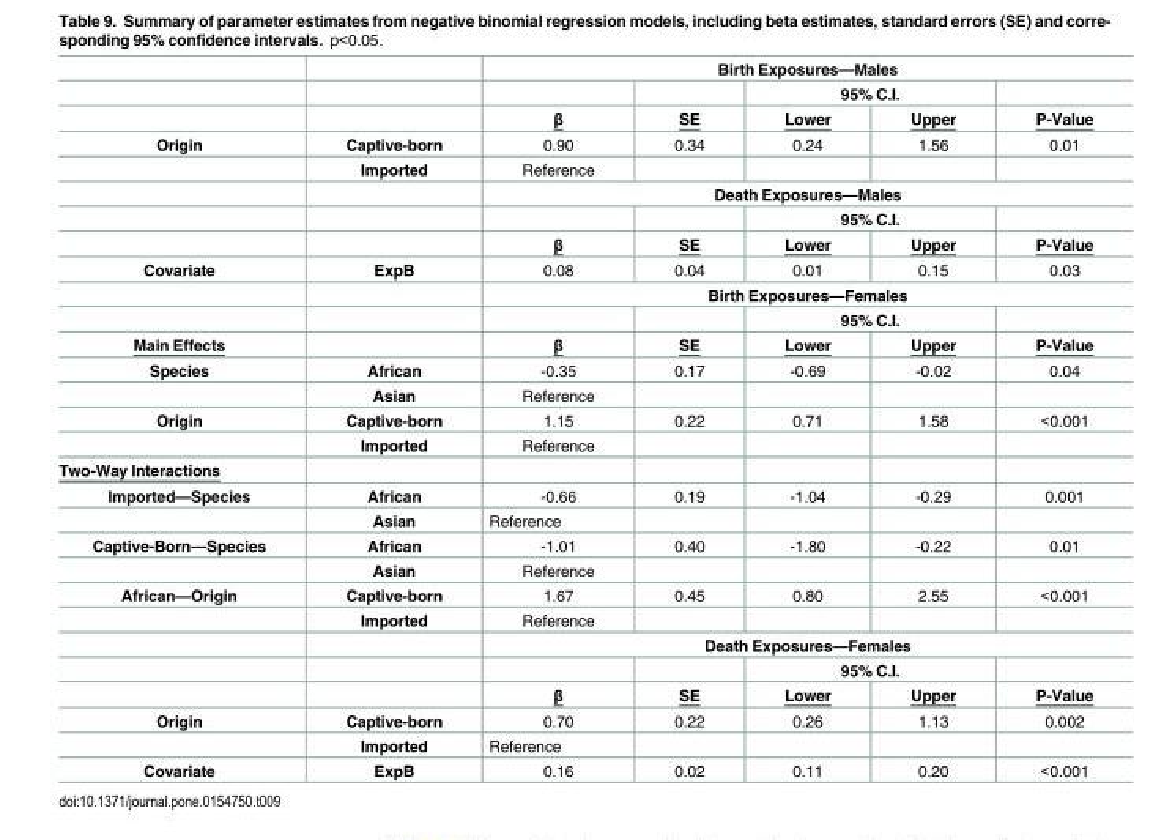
<table><thead><tr><td rowspan="3"></td><td rowspan="3"></td><td colspan="5">Birth Exposures—Males</td></tr><tr><td rowspan="2">β</td><td rowspan="2">SE</td><td colspan="2">95% C.I.</td><td rowspan="2">P-Value</td></tr><tr><td>Lower</td><td>Upper</td></tr></thead><tbody><tr><td rowspan="5">Origin</td><td>Captive-born</td><td>0.90</td><td>0.34</td><td>0.24</td><td>1.56</td><td>0.01</td></tr><tr><td>Imported</td><td>Reference</td><td></td><td></td><td></td><td></td></tr><tr><td></td><td colspan="5">Death Exposures—Males</td></tr><tr><td></td><td></td><td></td><td colspan="2">95% C.I.</td><td></td></tr><tr><td></td><td>β</td><td>SE</td><td>Lower</td><td>Upper</td><td>P-Value</td></tr><tr><td rowspan="3">Covariate</td><td>ExpB</td><td>0.08</td><td>0.04</td><td>0.01</td><td>0.15</td><td>0.03</td></tr><tr><td></td><td colspan="5">Birth Exposures—Females</td></tr><tr><td></td><td></td><td></td><td colspan="2">95% C.I.</td><td></td></tr><tr><td>Main Effects</td><td></td><td>β</td><td>SE</td><td>Lower</td><td>Upper</td><td>P-Value</td></tr><tr><td rowspan="2">Species</td><td>African</td><td>-0.35</td><td>0.17</td><td>-0.69</td><td>-0.02</td><td>0.04</td></tr><tr><td>Asian</td><td>Reference</td><td></td><td></td><td></td><td></td></tr><tr><td rowspan="2">Origin</td><td>Captive-born</td><td>1.15</td><td>0.22</td><td>0.71</td><td>1.58</td><td>&lt;0.001</td></tr><tr><td>Imported</td><td>Reference</td><td></td><td></td><td></td><td></td></tr><tr><td colspan="7">Two-Way Interactions</td></tr><tr><td rowspan="2">Imported—Species</td><td>African</td><td>-0.66</td><td>0.19</td><td>-1.04</td><td>-0.29</td><td>0.001</td></tr><tr><td>Asian</td><td>Reference</td><td></td><td></td><td></td><td></td></tr><tr><td rowspan="2">Captive-Born—Species</td><td>African</td><td>-1.01</td><td>0.40</td><td>-1.80</td><td>-0.22</td><td>0.01</td></tr><tr><td>Asian</td><td>Reference</td><td></td><td></td><td></td><td></td></tr><tr><td rowspan="5">African—Origin</td><td>Captive-born</td><td>1.67</td><td>0.45</td><td>0.80</td><td>2.55</td><td>&lt;0.001</td></tr><tr><td>Imported</td><td>Reference</td><td></td><td></td><td></td><td></td></tr><tr><td></td><td colspan="5">Death Exposures—Females</td></tr><tr><td></td><td></td><td></td><td colspan="2">95% C.I.</td><td></td></tr><tr><td></td><td>β</td><td>SE</td><td>Lower</td><td>Upper</td><td>P-Value</td></tr><tr><td rowspan="2">Origin</td><td>Captive-born</td><td>0.70</td><td>0.22</td><td>0.26</td><td>1.13</td><td>0.002</td></tr><tr><td>Imported</td><td>Reference</td><td></td><td></td><td></td><td></td></tr><tr><td>Covariate</td><td>ExpB</td><td>0.16</td><td>0.02</td><td>0.11</td><td>0.20</td><td>&lt;0.001</td></tr></tbody></table>